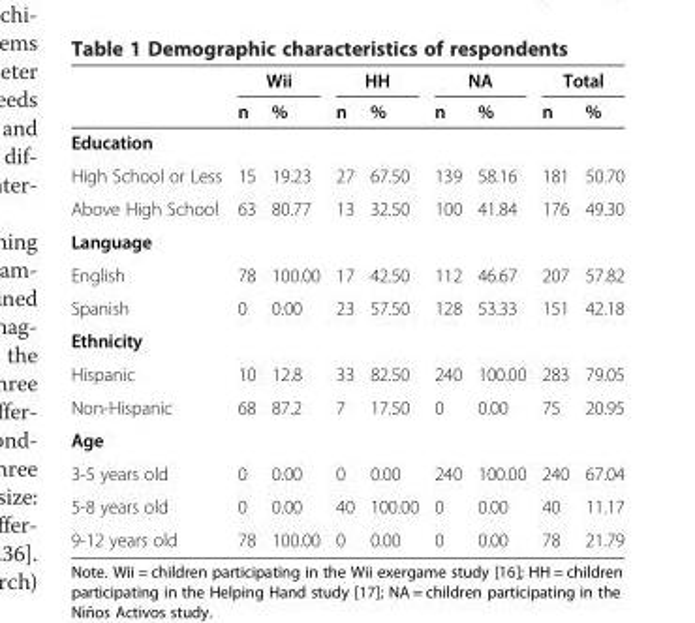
<table><thead><tr><td rowspan="2"></td><td colspan="2">Wii</td><td colspan="2">HH</td><td colspan="2">NA</td><td colspan="2">Total</td></tr><tr><td>n</td><td>%</td><td>n</td><td>%</td><td>n</td><td>%</td><td>n</td><td>%</td></tr></thead><tbody><tr><td colspan="9">Education</td></tr><tr><td>High School or Less</td><td>15</td><td>19.23</td><td>27</td><td>67.50</td><td>139</td><td>58.16</td><td>181</td><td>50.70</td></tr><tr><td>Above High School</td><td>63</td><td>80.77</td><td>13</td><td>32.50</td><td>100</td><td>41.84</td><td>176</td><td>49.30</td></tr><tr><td colspan="9">Language</td></tr><tr><td>English</td><td>78</td><td>100.00</td><td>17</td><td>42.50</td><td>112</td><td>46.67</td><td>207</td><td>57.82</td></tr><tr><td>Spanish</td><td>0</td><td>0.00</td><td>23</td><td>57.50</td><td>128</td><td>53.33</td><td>151</td><td>42.18</td></tr><tr><td colspan="9">Ethnicity</td></tr><tr><td>Hispanic</td><td>10</td><td>12.8</td><td>33</td><td>82.50</td><td>240</td><td>100.00</td><td>283</td><td>79.05</td></tr><tr><td>Non-Hispanic</td><td>68</td><td>87.2</td><td>7</td><td>17.50</td><td>0</td><td>0.00</td><td>75</td><td>20.95</td></tr><tr><td colspan="9">Age</td></tr><tr><td>3-5 years old</td><td>0</td><td>0.00</td><td>0</td><td>0.00</td><td>240</td><td>100.00</td><td>240</td><td>67.04</td></tr><tr><td>5-8 years old</td><td>0</td><td>0.00</td><td>40</td><td>100.00</td><td>0</td><td>0.00</td><td>40</td><td>11.17</td></tr><tr><td>9-12 years old</td><td>78</td><td>100.00</td><td>0</td><td>0.00</td><td>0</td><td>0.00</td><td>78</td><td>21.79</td></tr></tbody></table>